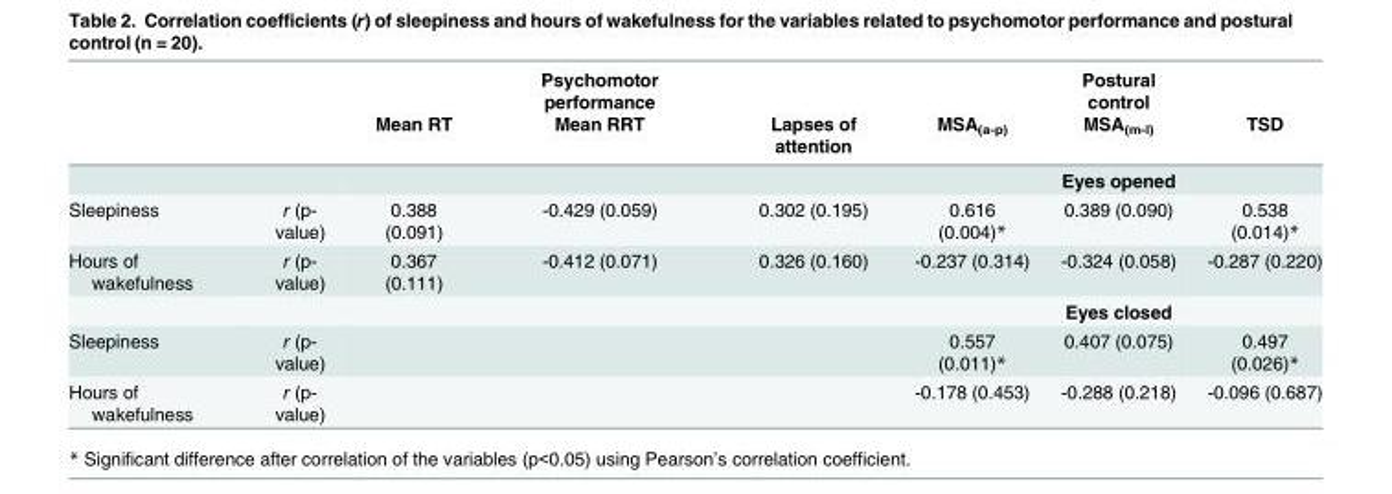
<table><thead><tr><td rowspan="2"></td><td rowspan="2"></td><td rowspan="2">Mean RT</td><td rowspan="2">Psychomotor performance Mean RRT</td><td rowspan="2">Lapses of attention</td><td rowspan="2">MSA<sub>(a-p)</sub></td><td rowspan="2">Postural control MSA<sub>(m-l)</sub></td><td rowspan="2">TSD</td></tr><tr></tr></thead><tbody><tr><td></td><td></td><td></td><td></td><td></td><td></td><td>Eyes opened</td><td></td></tr><tr><td>Sleepiness</td><td>r (p- value)</td><td>0.388 (0.091)</td><td>-0.429 (0.059)</td><td>0.302 (0.195)</td><td>0.616 (0.004)*</td><td>0.389 (0.090)</td><td>0.538 (0.014)*</td></tr><tr><td rowspan="2">Hours of wakefulness</td><td>r (p- value)</td><td>0.367 (0.111)</td><td>-0.412 (0.071)</td><td>0.326 (0.160)</td><td>-0.237 (0.314)</td><td>-0.324 (0.058)</td><td>-0.287 (0.220)</td></tr><tr><td></td><td></td><td></td><td></td><td></td><td>Eyes closed</td><td></td></tr><tr><td>Sleepiness</td><td>r (p- value)</td><td></td><td></td><td></td><td>0.557 (0.011)*</td><td>0.407 (0.075)</td><td>0.497 (0.026)*</td></tr><tr><td>Hours of wakefulness</td><td>r (p- value)</td><td></td><td></td><td></td><td>-0.178 (0.453)</td><td>-0.288 (0.218)</td><td>-0.096 (0.687)</td></tr></tbody></table>